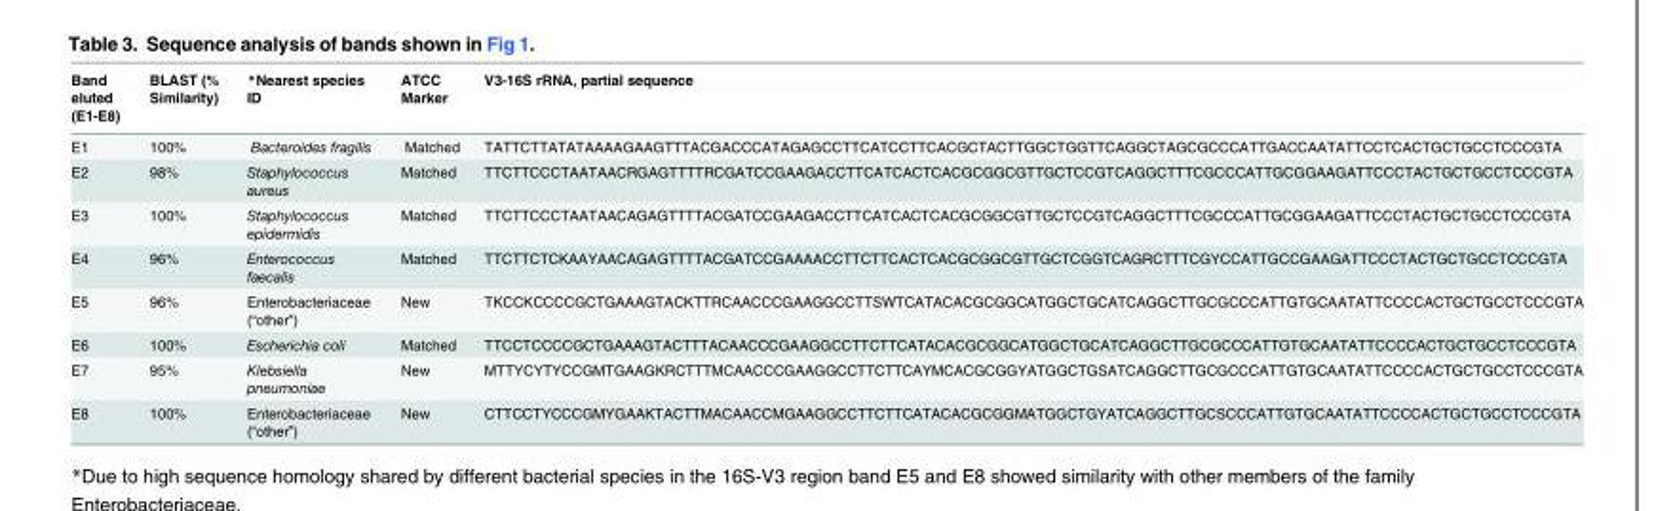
<table><thead><tr><td>Band eluted (E1-E8)</td><td>BLAST (% Similarity)</td><td>*Nearest species ID</td><td>ATCC Marker</td><td>V3-16S rRNA, partial sequence</td></tr></thead><tbody><tr><td>E1</td><td>100%</td><td>Bacteroides fragilis</td><td>Matched</td><td>TATTCTTATATAAAAGAAGTTTACGACCCATAGAGCCTTCATCCTTCACGCTACTTGGCTGGTTCAGGCTAGCGCCCATTGACCAATATTCCTCACTGCTGCCTCCCGTA</td></tr><tr><td>E2</td><td>98%</td><td>Staphylococcus aureus</td><td>Matched</td><td>TTCTTCCCTAATAACRGAGTTTTRCGATCCGAAGACCTTCATCACTCACGCGGCGTTGCTCCGTCAGGCTTTCGCCCATTGCGGAAGATTCCCTACTGCTGCCTCCCGTA</td></tr><tr><td>E3</td><td>100%</td><td>Staphylococcus epidermidis</td><td>Matched</td><td>TTCTTCCCTAATAACAGAGTTTTACGATCCGAAGACCTTCATCACTCACGCGGCGTTGCTCCGTCAGGCTTTCGCCCATTGCGGAAGATTCCCTACTGCTGCCTCCCGTA</td></tr><tr><td>E4</td><td>96%</td><td>Enterococcus faecalis</td><td>Matched</td><td>TTCTTCTCKAAYAACAGAGTTTTACGATCCGAAAACCTTCTTCACTCACGCGGCGTTGCTCGGTCAGRCTTTCGYCCATTGCCGAAGATTCCCTACTGCTGCCTCCCGTA</td></tr><tr><td>E5</td><td>96%</td><td>Enterobacteriaceae (“other”)</td><td>New</td><td>TKCCKCCCCGCTGAAAGTACKTTRCAACCCGAAGGCCTTSWTCATACACGCGGCATGGCTGCATCAGGCTTGCGCCCATTGTGCAATATTCCCCACTGCTGCCTCCCGTA</td></tr><tr><td>E6</td><td>100%</td><td>Escherichia coli</td><td>Matched</td><td>TTCCTCCCCGCTGAAAGTACTTTACAACCCGAAGGCCTTCTTCATACACGCGGCATGGCTGCATCAGGCTTGCGCCCATTGTGCAATATTCCCCACTGCTGCCTCCCGTA</td></tr><tr><td>E7</td><td>95%</td><td>Klebsiella pneumoniae</td><td>New</td><td>MTTYCYTYCCGMTGAAGKRCTTTMCAACCCGAAGGCCTTCTTCAYMCACGCGGYATGGCTGSATCAGGCTTGCGCCCATTGTGCAATATTCCCCACTGCTGCCTCCCGTA</td></tr><tr><td>E8</td><td>100%</td><td>Enterobacteriaceae (“other”)</td><td>New</td><td>CTTCCTYCCCGMYGAAKTACTTMACAACCMGAAGGCCTTCTTCATACACGCGGMATGGCTGYATCAGGCTTGCSCCCATTGTGCAATATTCCCCACTGCTGCCTCCCGTA</td></tr></tbody></table>